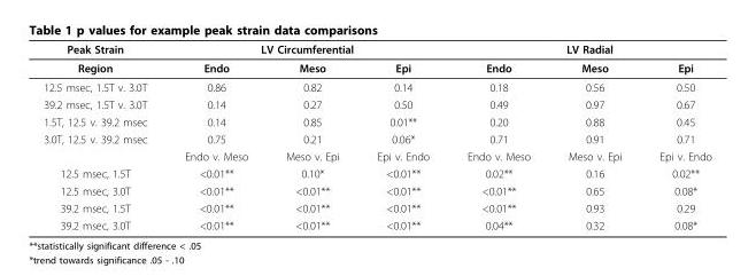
<table><thead><tr><td rowspan="2">Peak Strain Region</td><td colspan="3">LV Circumferential</td><td colspan="3">LV Radial</td></tr><tr><td>Endo</td><td>Meso</td><td>Epi</td><td>Endo</td><td>Meso</td><td>Epi</td></tr></thead><tbody><tr><td>12.5 msec, 1.5T v. 3.0T</td><td>0.86</td><td>0.82</td><td>0.14</td><td>0.18</td><td>0.56</td><td>0.50</td></tr><tr><td>39.2 msec, 1.5T v. 3.0T</td><td>0.14</td><td>0.27</td><td>0.50</td><td>0.49</td><td>0.97</td><td>0.67</td></tr><tr><td>1.5T, 12.5 v. 39.2 msec</td><td>0.14</td><td>0.85</td><td>0.01**</td><td>0.20</td><td>0.88</td><td>0.45</td></tr><tr><td rowspan="2">3.0T, 12.5 v. 39.2 msec</td><td>0.75</td><td>0.21</td><td>0.06*</td><td>0.71</td><td>0.91</td><td>0.71</td></tr><tr><td>Endo v. Meso</td><td>Meso v. Epi</td><td>Epi v. Endo</td><td>Endo v. Meso</td><td>Meso v. Epi</td><td>Epi v. Endo</td></tr><tr><td>12.5 msec, 1.5T</td><td>&lt;0.01**</td><td>0.10*</td><td>&lt;0.01**</td><td>0.02**</td><td>0.16</td><td>0.02**</td></tr><tr><td>12.5 msec, 3.0T</td><td>&lt;0.01**</td><td>&lt;0.01**</td><td>&lt;0.01**</td><td>&lt;0.01**</td><td>0.65</td><td>0.08*</td></tr><tr><td>39.2 msec, 1.5T</td><td>&lt;0.01**</td><td>&lt;0.01**</td><td>&lt;0.01**</td><td>&lt;0.01**</td><td>0.93</td><td>0.29</td></tr><tr><td>39.2 msec, 3.0T</td><td>&lt;0.01**</td><td>&lt;0.01**</td><td>&lt;0.01**</td><td>0.04**</td><td>0.32</td><td>0.08*</td></tr></tbody></table>